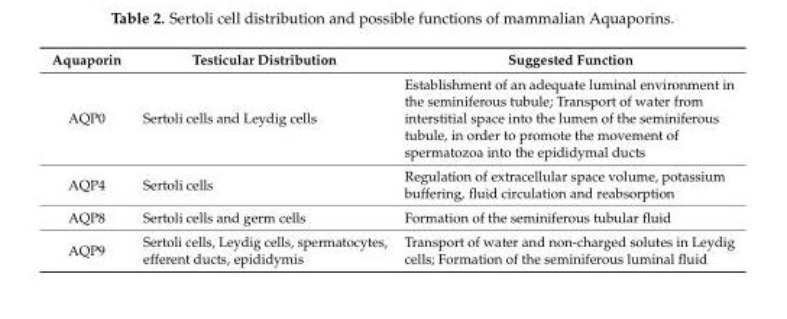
<table><thead><tr><td>Aquaporin</td><td>Testicular Distribution</td><td>Suggested Function</td></tr></thead><tbody><tr><td>AQP0</td><td>Sertoli cells and Leydig cells</td><td>Establishment of an adequate luminal environment in the seminiferous tubule; Transport of water from interstitial space into the lumen of the seminiferous tubule, in order to promote the movement of spermatozoa into the epididymal ducts</td></tr><tr><td>AQP4</td><td>Sertoli cells</td><td>Regulation of extracellular space volume, potassium buffering, fluid circulation and reabsorption</td></tr><tr><td>AQP8</td><td>Sertoli cells and germ cells</td><td>Formation of the seminiferous tubular fluid</td></tr><tr><td>AQP9</td><td>Sertoli cells, Leydig cells, spermatocytes, efferent ducts, epididymis</td><td>Transport of water and non-charged solutes in Leydig cells; Formation of the seminiferous luminal fluid</td></tr></tbody></table>